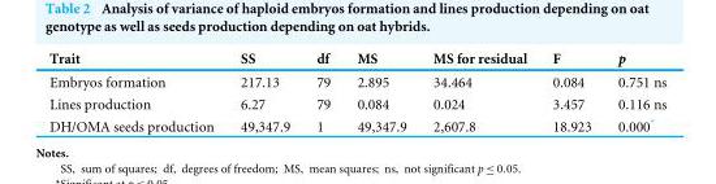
<table><thead><tr><td>Trait</td><td>SS</td><td>df</td><td>MS</td><td>MS for residual</td><td>F</td><td>p</td></tr></thead><tbody><tr><td>Embryos formation</td><td>217.13</td><td>79</td><td>2.895</td><td>34.464</td><td>0.084</td><td>0.751 ns</td></tr><tr><td>Lines production</td><td>6.27</td><td>79</td><td>0.084</td><td>0.024</td><td>3.457</td><td>0.116 ns</td></tr><tr><td>DH/OMA seeds production</td><td>49,347.9</td><td>1</td><td>49,347.9</td><td>2,607.8</td><td>18.923</td><td>0.000*</td></tr></tbody></table>